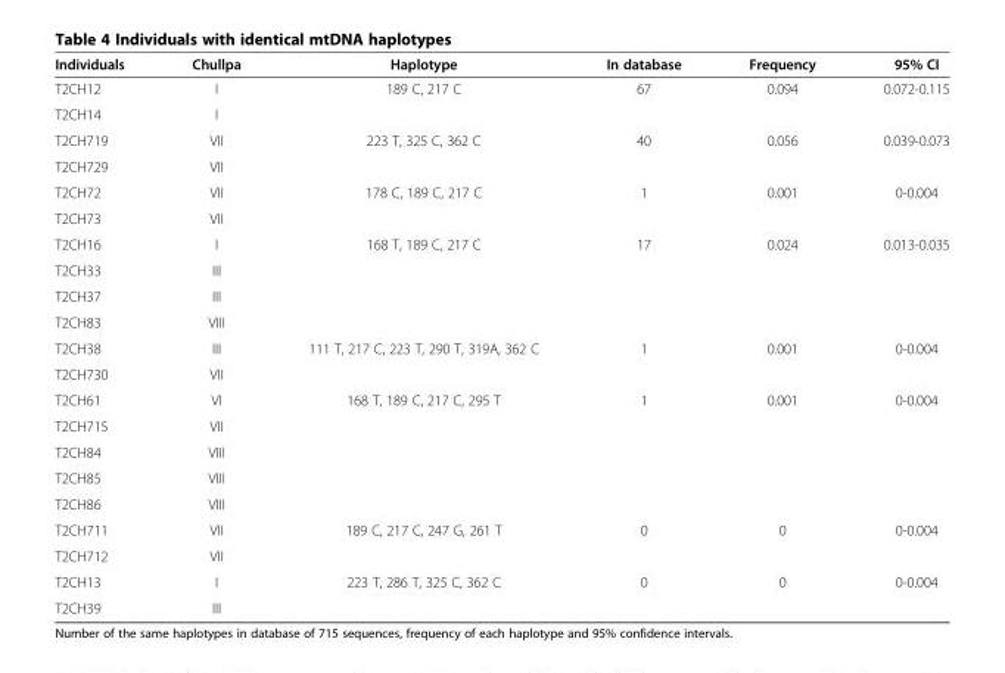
<table><thead><tr><td>Individuals</td><td>Chullpa</td><td>Haplotype</td><td>In database</td><td>Frequency</td><td>95% CI</td></tr></thead><tbody><tr><td>T2CH12</td><td>I</td><td rowspan="2">189 C, 217 C</td><td rowspan="2">67</td><td rowspan="2">0.094</td><td rowspan="2">0.072-0.115</td></tr><tr><td>T2CH14</td><td>I</td></tr><tr><td>T2CH719</td><td>VII</td><td rowspan="2">223 T, 325 C, 362 C</td><td rowspan="2">40</td><td rowspan="2">0.056</td><td rowspan="2">0.039-0.073</td></tr><tr><td>T2CH729</td><td>VII</td></tr><tr><td>T2CH72</td><td>VII</td><td rowspan="2">178 C, 189 C, 217 C</td><td rowspan="2">1</td><td rowspan="2">0.001</td><td rowspan="2">0-0.004</td></tr><tr><td>T2CH73</td><td>VII</td></tr><tr><td>T2CH16</td><td>I</td><td rowspan="4">168 T, 189 C, 217 C</td><td rowspan="4">17</td><td rowspan="4">0.024</td><td rowspan="4">0.013-0.035</td></tr><tr><td>T2CH33</td><td>III</td></tr><tr><td>T2CH37</td><td>III</td></tr><tr><td>T2CH83</td><td>VIII</td></tr><tr><td>T2CH38</td><td>III</td><td rowspan="2">111 T, 217 C, 223 T, 290 T, 319A, 362 C</td><td rowspan="2">1</td><td rowspan="2">0.001</td><td rowspan="2">0-0.004</td></tr><tr><td>T2CH730</td><td>VII</td></tr><tr><td>T2CH61</td><td>VI</td><td rowspan="5">168 T, 189 C, 217 C, 295 T</td><td rowspan="5">1</td><td rowspan="5">0.001</td><td rowspan="5">0-0.004</td></tr><tr><td>T2CH715</td><td>VII</td></tr><tr><td>T2CH84</td><td>VIII</td></tr><tr><td>T2CH85</td><td>VIII</td></tr><tr><td>T2CH86</td><td>VIII</td></tr><tr><td>T2CH711</td><td>VII</td><td rowspan="2">189 C, 217 C, 247 G, 261 T</td><td rowspan="2">0</td><td rowspan="2">0</td><td rowspan="2">0-0.004</td></tr><tr><td>T2CH712</td><td>VII</td></tr><tr><td>T2CH13</td><td>I</td><td>223 T, 286 T, 325 C, 362 C</td><td>0</td><td>0</td><td>0-0.004</td></tr><tr><td>T2CH39</td><td>III</td><td></td><td></td><td></td><td></td></tr></tbody></table>